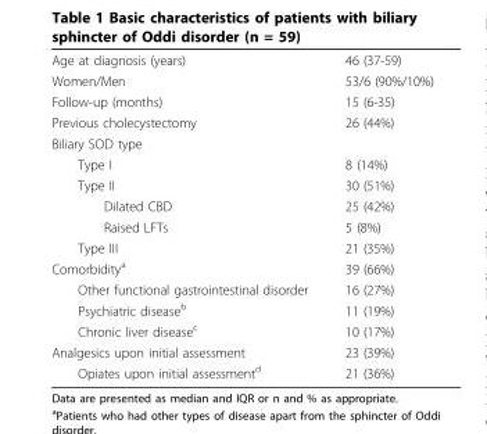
<table><tbody><tr><td>Age at diagnosis (years)</td><td>46 (37-59)</td></tr><tr><td>Women/Men</td><td>53/6 (90%/10%)</td></tr><tr><td>Follow-up (months)</td><td>15 (6-35)</td></tr><tr><td>Previous cholecystectomy</td><td>26 (44%)</td></tr><tr><td colspan="2">Biliary SOD type</td></tr><tr><td>Type I</td><td>8 (14%)</td></tr><tr><td>Type II</td><td>30 (51%)</td></tr><tr><td>Dilated CBD</td><td>25 (42%)</td></tr><tr><td>Raised LFTs</td><td>5 (8%)</td></tr><tr><td>Type III</td><td>21 (35%)</td></tr><tr><td>Comorbidity<sup>a</sup></td><td>39 (66%)</td></tr><tr><td>Other functional gastrointestinal disorder</td><td>16 (27%)</td></tr><tr><td>Psychiatric disease<sup>b</sup></td><td>11 (19%)</td></tr><tr><td>Chronic liver disease<sup>c</sup></td><td>10 (17%)</td></tr><tr><td>Analgesics upon initial assessment</td><td>23 (39%)</td></tr><tr><td>Opiates upon initial assessment<sup>d</sup></td><td>21 (36%)</td></tr></tbody></table>